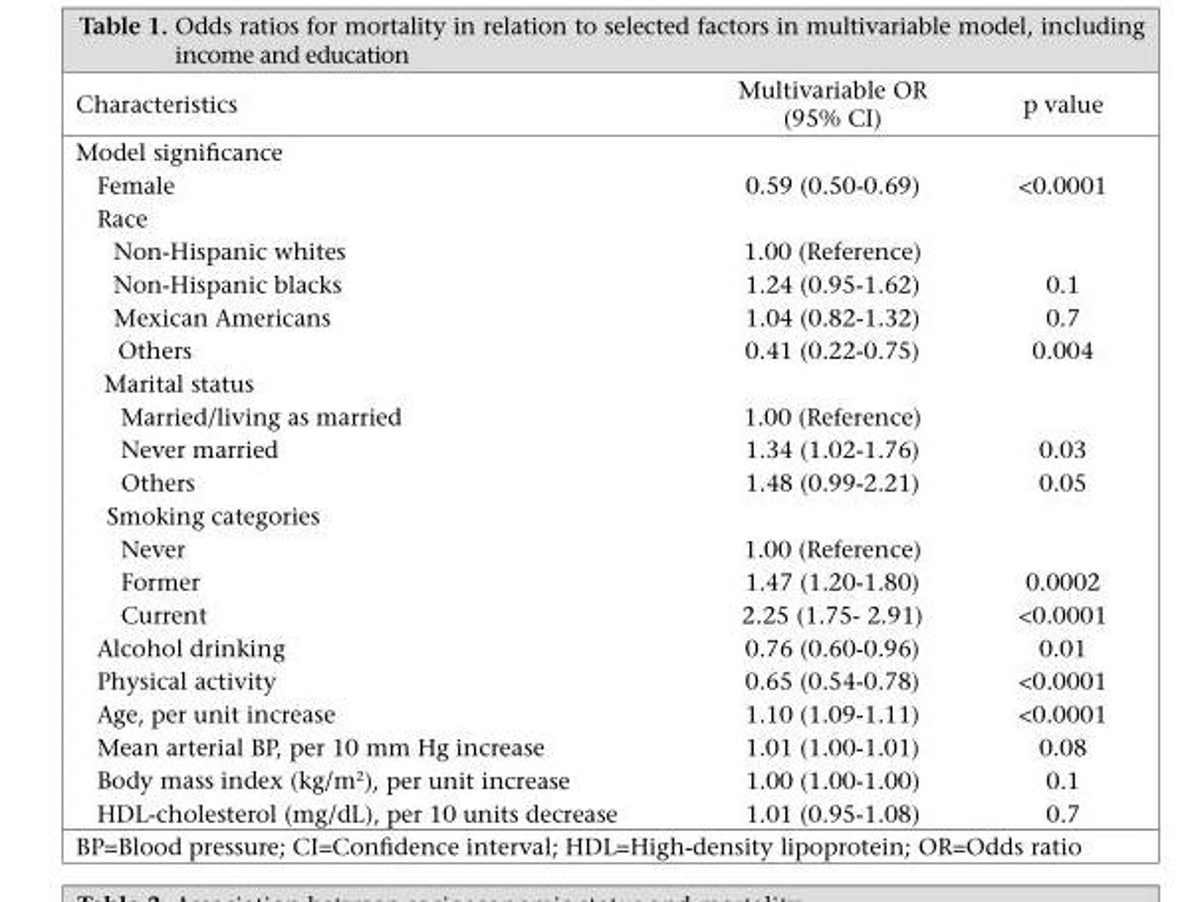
<table><thead><tr><td>Characteristics</td><td>Multivariable OR (95% CI)</td><td>p value</td></tr></thead><tbody><tr><td colspan="3">Model significance</td></tr><tr><td>Female</td><td>0.59 (0.50-0.69)</td><td>&lt;0.0001</td></tr><tr><td colspan="3">Race</td></tr><tr><td>Non-Hispanic whites</td><td>1.00 (Reference)</td><td></td></tr><tr><td>Non-Hispanic blacks</td><td>1.24 (0.95-1.62)</td><td>0.1</td></tr><tr><td>Mexican Americans</td><td>1.04 (0.82-1.32)</td><td>0.7</td></tr><tr><td>Others</td><td>0.41 (0.22-0.75)</td><td>0.004</td></tr><tr><td colspan="3">Marital status</td></tr><tr><td>Married/living as married</td><td>1.00 (Reference)</td><td></td></tr><tr><td>Never married</td><td>1.34 (1.02-1.76)</td><td>0.03</td></tr><tr><td>Others</td><td>1.48 (0.99-2.21)</td><td>0.05</td></tr><tr><td colspan="3">Smoking categories</td></tr><tr><td>Never</td><td>1.00 (Reference)</td><td></td></tr><tr><td>Former</td><td>1.47 (1.20-1.80)</td><td>0.0002</td></tr><tr><td>Current</td><td>2.25 (1.75- 2.91)</td><td>&lt;0.0001</td></tr><tr><td>Alcohol drinking</td><td>0.76 (0.60-0.96)</td><td>0.01</td></tr><tr><td>Physical activity</td><td>0.65 (0.54-0.78)</td><td>&lt;0.0001</td></tr><tr><td>Age, per unit increase</td><td>1.10 (1.09-1.11)</td><td>&lt;0.0001</td></tr><tr><td>Mean arterial BP, per 10 mm Hg increase</td><td>1.01 (1.00-1.01)</td><td>0.08</td></tr><tr><td>Body mass index (kg/m<sup>2</sup>), per unit increase</td><td>1.00 (1.00-1.00)</td><td>0.1</td></tr><tr><td>HDL-cholesterol (mg/dL), per 10 units decrease</td><td>1.01 (0.95-1.08)</td><td>0.7</td></tr></tbody></table>